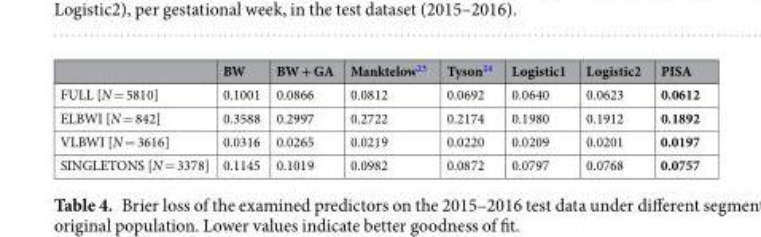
<table><thead><tr><td></td><td>BW</td><td>BW + GA</td><td>Manktelow<sup>23</sup></td><td>Tyson<sup>24</sup></td><td>Logistic1</td><td>Logistic2</td><td>PISA</td></tr></thead><tbody><tr><td>FULL [N = 5810]</td><td>0.1001</td><td>0.0866</td><td>0.0812</td><td>0.0692</td><td>0.0640</td><td>0.0623</td><td>0.0612</td></tr><tr><td>ELBWI [N = 842]</td><td>0.3588</td><td>0.2997</td><td>0.2722</td><td>0.2174</td><td>0.1980</td><td>0.1912</td><td>0.1892</td></tr><tr><td>VLBWI [N = 3616]</td><td>0.0316</td><td>0.0265</td><td>0.0219</td><td>0.0220</td><td>0.0209</td><td>0.0201</td><td>0.0197</td></tr><tr><td>SINGLETONS [N = 3378]</td><td>0.1145</td><td>0.1019</td><td>0.0982</td><td>0.0872</td><td>0.0797</td><td>0.0768</td><td>0.0757</td></tr></tbody></table>